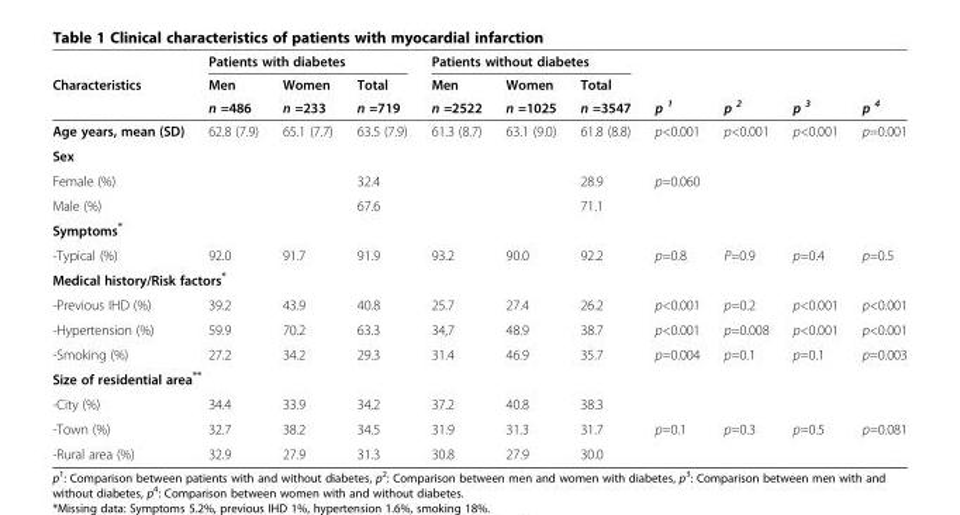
<table><thead><tr><td rowspan="3">Characteristics</td><td colspan="3">Patients with diabetes</td><td colspan="3">Patients without diabetes</td><td rowspan="3">p <sup>1</sup></td><td rowspan="3">p <sup>2</sup></td><td rowspan="3">p <sup>3</sup></td><td rowspan="3">p <sup>4</sup></td></tr><tr><td rowspan="2">Men n =486</td><td rowspan="2">Women n =233</td><td rowspan="2">Total n =719</td><td rowspan="2">Men n =2522</td><td rowspan="2">Women n =1025</td><td rowspan="2">Total n =3547</td></tr><tr></tr></thead><tbody><tr><td>Age years, mean (SD)</td><td>62.8 (7.9)</td><td>65.1 (7.7)</td><td>63.5 (7.9)</td><td>61.3 (8.7)</td><td>63.1 (9.0)</td><td>61.8 (8.8)</td><td>p&lt;0.001</td><td>p&lt;0.001</td><td>p&lt;0.001</td><td>p=0.001</td></tr><tr><td colspan="11">Sex</td></tr><tr><td>Female (%)</td><td></td><td></td><td>32.4</td><td></td><td></td><td>28.9</td><td>p=0.060</td><td></td><td></td><td></td></tr><tr><td>Male (%)</td><td></td><td></td><td>67.6</td><td></td><td></td><td>71.1</td><td></td><td></td><td></td><td></td></tr><tr><td colspan="11">Symptoms*</td></tr><tr><td>-Typical (%)</td><td>92.0</td><td>91.7</td><td>91.9</td><td>93.2</td><td>90.0</td><td>92.2</td><td>p=0.8</td><td>P=0.9</td><td>p=0.4</td><td>p=0.5</td></tr><tr><td colspan="11">Medical history/Risk factors*</td></tr><tr><td>-Previous IHD (%)</td><td>39.2</td><td>43.9</td><td>40.8</td><td>25.7</td><td>27.4</td><td>26.2</td><td>p&lt;0.001</td><td>p=0.2</td><td>p&lt;0.001</td><td>p&lt;0.001</td></tr><tr><td>-Hypertension (%)</td><td>59.9</td><td>70.2</td><td>63.3</td><td>34,7</td><td>48.9</td><td>38.7</td><td>p&lt;0.001</td><td>p=0.008</td><td>p&lt;0.001</td><td>p&lt;0.001</td></tr><tr><td>-Smoking (%)</td><td>27.2</td><td>34.2</td><td>29.3</td><td>31.4</td><td>46.9</td><td>35.7</td><td>p=0.004</td><td>p=0.1</td><td>p=0.1</td><td>p=0.003</td></tr><tr><td colspan="11">Size of residential area**</td></tr><tr><td>-City (%)</td><td>34.4</td><td>33.9</td><td>34.2</td><td>37.2</td><td>40.8</td><td>38.3</td><td></td><td></td><td></td><td></td></tr><tr><td>-Town (%)</td><td>32.7</td><td>38.2</td><td>34.5</td><td>31.9</td><td>31.3</td><td>31.7</td><td>p=0.1</td><td>p=0.3</td><td>p=0.5</td><td>p=0.081</td></tr><tr><td>-Rural area (%)</td><td>32.9</td><td>27.9</td><td>31.3</td><td>30.8</td><td>27.9</td><td>30.0</td><td></td><td></td><td></td><td></td></tr></tbody></table>